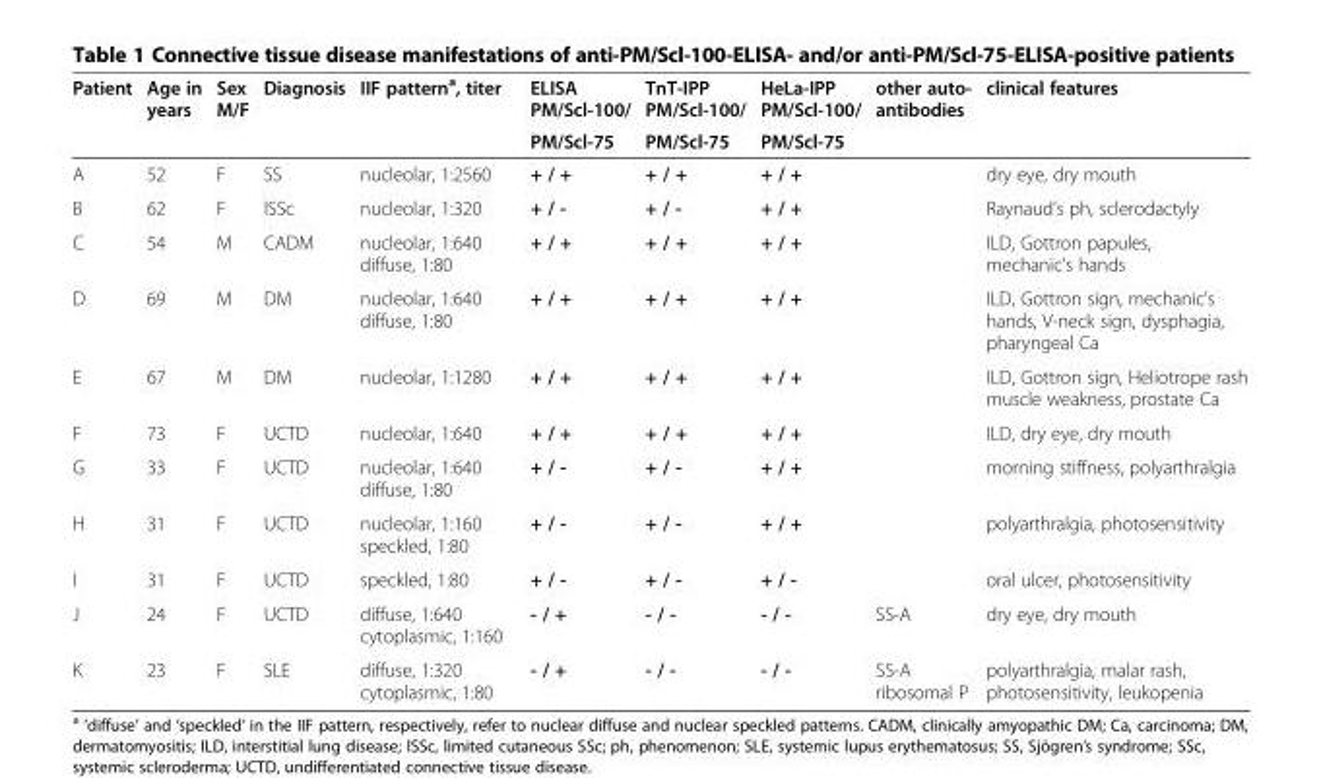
<table><thead><tr><td rowspan="2">Patient</td><td rowspan="2">Age in years</td><td rowspan="2">Sex M/F</td><td rowspan="2">Diagnosis</td><td rowspan="2">IIF pattern<sup>a</sup>, titer</td><td rowspan="2">ELISA PM/Scl-100/ PM/Scl-75</td><td rowspan="2">TnT-IPP PM/Scl-100/ PM/Scl-75</td><td rowspan="2">HeLa-IPP PM/Scl-100/ PM/Scl-75</td><td rowspan="2">other auto- antibodies</td><td rowspan="2">clinical features</td></tr><tr></tr></thead><tbody><tr><td>A</td><td>52</td><td>F</td><td>SS</td><td>nucleolar, 1:2560</td><td>+ / +</td><td>+ / +</td><td>+ / +</td><td></td><td>dry eye, dry mouth</td></tr><tr><td>B</td><td>62</td><td>F</td><td>lSSc</td><td>nucleolar, 1:320</td><td>+ / -</td><td>+ / -</td><td>+ / +</td><td></td><td>Raynaud’s ph, sclerodactyly</td></tr><tr><td>C</td><td>54</td><td>M</td><td>CADM</td><td>nucleolar, 1:640 diffuse, 1:80</td><td>+ / +</td><td>+ / +</td><td>+ / +</td><td></td><td>ILD, Gottron papules, mechanic’s hands</td></tr><tr><td>D</td><td>69</td><td>M</td><td>DM</td><td>nucleolar, 1:640 diffuse, 1:80</td><td>+ / +</td><td>+ / +</td><td>+ / +</td><td></td><td>ILD, Gottron sign, mechanic’s hands, V-neck sign, dysphagia, pharyngeal Ca</td></tr><tr><td>E</td><td>67</td><td>M</td><td>DM</td><td>nucleolar, 1:1280</td><td>+ / +</td><td>+ / +</td><td>+ / +</td><td></td><td>ILD, Gottron sign, Heliotrope rash muscle weakness, prostate Ca</td></tr><tr><td>F</td><td>73</td><td>F</td><td>UCTD</td><td>nucleolar, 1:640</td><td>+ / +</td><td>+ / +</td><td>+ / +</td><td></td><td>ILD, dry eye, dry mouth</td></tr><tr><td>G</td><td>33</td><td>F</td><td>UCTD</td><td>nucleolar, 1:640 diffuse, 1:80</td><td>+ / -</td><td>+ / -</td><td>+ / +</td><td></td><td>morning stiffness, polyarthralgia</td></tr><tr><td>H</td><td>31</td><td>F</td><td>UCTD</td><td>nucleolar, 1:160 speckled, 1:80</td><td>+ / -</td><td>+ / -</td><td>+ / +</td><td></td><td>polyarthralgia, photosensitivity</td></tr><tr><td>I</td><td>31</td><td>F</td><td>UCTD</td><td>speckled, 1:80</td><td>+ / -</td><td>+ / -</td><td>+ / -</td><td></td><td>oral ulcer, photosensitivity</td></tr><tr><td>J</td><td>24</td><td>F</td><td>UCTD</td><td>diffuse, 1:640 cytoplasmic, 1:160</td><td>- / +</td><td>- / -</td><td>- / -</td><td>SS-A</td><td>dry eye, dry mouth</td></tr><tr><td>K</td><td>23</td><td>F</td><td>SLE</td><td>diffuse, 1:320 cytoplasmic, 1:80</td><td>- / +</td><td>- / -</td><td>- / -</td><td>SS-A ribosomal P</td><td>polyarthralgia, malar rash, photosensitivity, leukopenia</td></tr></tbody></table>